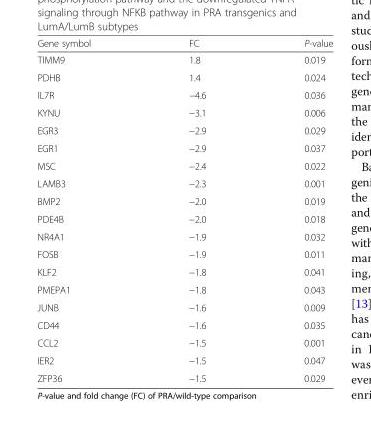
<table><thead><tr><td>Gene symbol</td><td>FC</td><td>P-value</td></tr></thead><tbody><tr><td>TIMM9</td><td>1.8</td><td>0.019</td></tr><tr><td>PDHB</td><td>1.4</td><td>0.024</td></tr><tr><td>IL7R</td><td>−4.6</td><td>0.036</td></tr><tr><td>KYNU</td><td>−3.1</td><td>0.006</td></tr><tr><td>EGR3</td><td>−2.9</td><td>0.029</td></tr><tr><td>EGR1</td><td>−2.9</td><td>0.037</td></tr><tr><td>MSC</td><td>−2.4</td><td>0.022</td></tr><tr><td>LAMB3</td><td>−2.3</td><td>0.001</td></tr><tr><td>BMP2</td><td>−2.0</td><td>0.019</td></tr><tr><td>PDE4B</td><td>−2.0</td><td>0.018</td></tr><tr><td>NR4A1</td><td>−1.9</td><td>0.032</td></tr><tr><td>FOSB</td><td>−1.9</td><td>0.011</td></tr><tr><td>KLF2</td><td>−1.8</td><td>0.041</td></tr><tr><td>PMEPA1</td><td>−1.8</td><td>0.043</td></tr><tr><td>JUNB</td><td>−1.6</td><td>0.009</td></tr><tr><td>CD44</td><td>−1.6</td><td>0.035</td></tr><tr><td>CCL2</td><td>−1.5</td><td>0.001</td></tr><tr><td>IER2</td><td>−1.5</td><td>0.047</td></tr><tr><td>ZFP36</td><td>−1.5</td><td>0.029</td></tr></tbody></table>